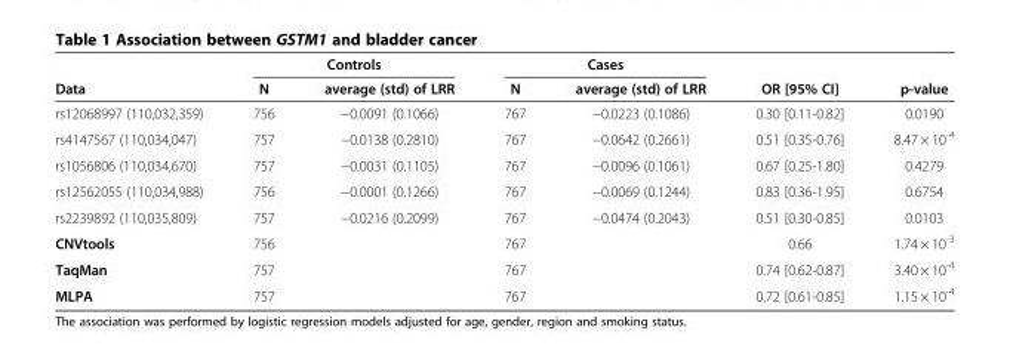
<table><thead><tr><td rowspan="2">Data</td><td colspan="2">Controls</td><td colspan="2">Cases</td><td rowspan="2">OR [95% CI]</td><td rowspan="2">p-value</td></tr><tr><td>N</td><td>average (std) of LRR</td><td>N</td><td>average (std) of LRR</td></tr></thead><tbody><tr><td>rs12068997 (110,032,359)</td><td>756</td><td>−0.0091 (0.1066)</td><td>767</td><td>−0.0223 (0.1086)</td><td>0.30 [0.11-0.82]</td><td>0.0190</td></tr><tr><td>rs4147567 (110,034,047)</td><td>757</td><td>−0.0138 (0.2810)</td><td>767</td><td>−0.0642 (0.2661)</td><td>0.51 [0.35-0.76]</td><td>8.47 × 10<sup>-4</sup></td></tr><tr><td>rs1056806 (110,034,670)</td><td>757</td><td>−0.0031 (0.1105)</td><td>767</td><td>−0.0096 (0.1061)</td><td>0.67 [0.25-1.80]</td><td>0.4279</td></tr><tr><td>rs12562055 (110,034,988)</td><td>756</td><td>−0.0001 (0.1266)</td><td>767</td><td>−0.0069 (0.1244)</td><td>0.83 [0.36-1.95]</td><td>0.6754</td></tr><tr><td>rs2239892 (110,035,809)</td><td>757</td><td>−0.0216 (0.2099)</td><td>767</td><td>−0.0474 (0.2043)</td><td>0.51 [0.30-0.85]</td><td>0.0103</td></tr><tr><td>CNVtools</td><td>756</td><td></td><td>767</td><td></td><td>0.66</td><td>1.74 × 10<sup>-3</sup></td></tr><tr><td>TaqMan</td><td>757</td><td></td><td>767</td><td></td><td>0.74 [0.62-0.87]</td><td>3.40 × 10<sup>-4</sup></td></tr><tr><td>MLPA</td><td>757</td><td></td><td>767</td><td></td><td>0.72 [0.61-0.85]</td><td>1.15 × 10<sup>-4</sup></td></tr></tbody></table>